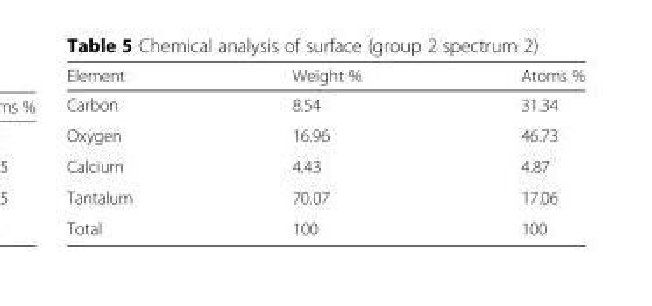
<table><thead><tr><td>Element</td><td>Weight %</td><td>Atoms %</td></tr></thead><tbody><tr><td>Carbon</td><td>8.54</td><td>31.34</td></tr><tr><td>Oxygen</td><td>16.96</td><td>46.73</td></tr><tr><td>Calcium</td><td>4.43</td><td>4.87</td></tr><tr><td>Tantalum</td><td>70.07</td><td>17.06</td></tr><tr><td>Total</td><td>100</td><td>100</td></tr></tbody></table>